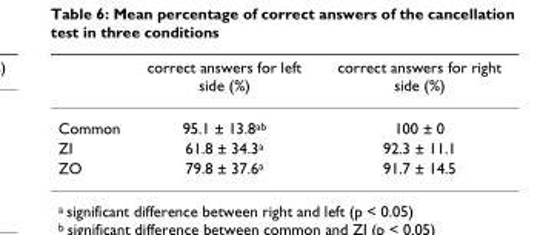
<table><thead><tr><td></td><td>correct answers for left side (%)</td><td>correct answers for right side (%)</td></tr></thead><tbody><tr><td>Common</td><td>95.1 ± 13.8<sup>ab</sup></td><td>100 ± 0</td></tr><tr><td>ZI</td><td>61.8 ± 34.3<sup>a</sup></td><td>92.3 ± 11.1</td></tr><tr><td>ZO</td><td>79.8 ± 37.6<sup>a</sup></td><td>91.7 ± 14.5</td></tr></tbody></table>